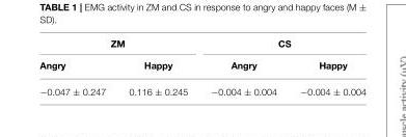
<table><thead><tr><td colspan="2">ZM</td><td colspan="2">CS</td></tr><tr><td>Angry</td><td>Happy</td><td>Angry</td><td>Happy</td></tr></thead><tbody><tr><td>−0.047 ± 0.247</td><td>0.116 ± 0.245</td><td>−0.004 ± 0.004</td><td>−0.004 ± 0.004</td></tr></tbody></table>